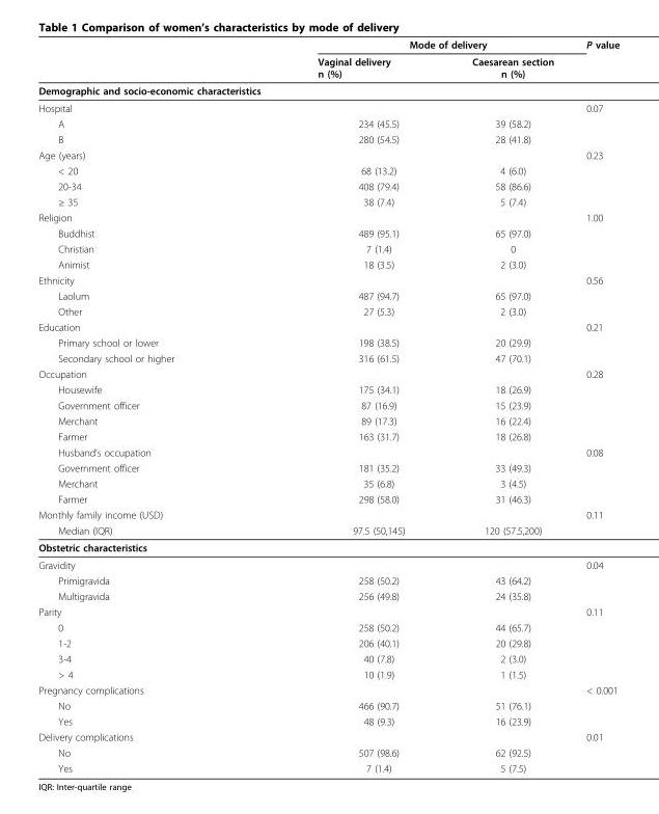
<table><thead><tr><td rowspan="2"></td><td colspan="2">Mode of delivery</td><td rowspan="2">P value</td></tr><tr><td>Vaginal delivery n (%)</td><td>Caesarean section n (%)</td></tr></thead><tbody><tr><td colspan="4">Demographic and socio-economic characteristics</td></tr><tr><td>Hospital</td><td></td><td></td><td>0.07</td></tr><tr><td>A</td><td>234 (45.5)</td><td>39 (58.2)</td><td></td></tr><tr><td>B</td><td>280 (54.5)</td><td>28 (41.8)</td><td></td></tr><tr><td>Age (years)</td><td></td><td></td><td>0.23</td></tr><tr><td>&lt; 20</td><td>68 (13.2)</td><td>4 (6.0)</td><td></td></tr><tr><td>20-34</td><td>408 (79.4)</td><td>58 (86.6)</td><td></td></tr><tr><td>≥ 35</td><td>38 (7.4)</td><td>5 (7.4)</td><td></td></tr><tr><td>Religion</td><td></td><td></td><td>1.00</td></tr><tr><td>Buddhist</td><td>489 (95.1)</td><td>65 (97.0)</td><td></td></tr><tr><td>Christian</td><td>7 (1.4)</td><td>0</td><td></td></tr><tr><td>Animist</td><td>18 (3.5)</td><td>2 (3.0)</td><td></td></tr><tr><td>Ethnicity</td><td></td><td></td><td>0.56</td></tr><tr><td>Laolum</td><td>487 (94.7)</td><td>65 (97.0)</td><td></td></tr><tr><td>Other</td><td>27 (5.3)</td><td>2 (3.0)</td><td></td></tr><tr><td>Education</td><td></td><td></td><td>0.21</td></tr><tr><td>Primary school or lower</td><td>198 (38.5)</td><td>20 (29.9)</td><td></td></tr><tr><td>Secondary school or higher</td><td>316 (61.5)</td><td>47 (70.1)</td><td></td></tr><tr><td>Occupation</td><td></td><td></td><td>0.28</td></tr><tr><td>Housewife</td><td>175 (34.1)</td><td>18 (26.9)</td><td></td></tr><tr><td>Government officer</td><td>87 (16.9)</td><td>15 (23.9)</td><td></td></tr><tr><td>Merchant</td><td>89 (17.3)</td><td>16 (22.4)</td><td></td></tr><tr><td>Farmer</td><td>163 (31.7)</td><td>18 (26.8)</td><td></td></tr><tr><td>Husband’s occupation</td><td></td><td></td><td>0.08</td></tr><tr><td>Government officer</td><td>181 (35.2)</td><td>33 (49.3)</td><td></td></tr><tr><td>Merchant</td><td>35 (6.8)</td><td>3 (4.5)</td><td></td></tr><tr><td>Farmer</td><td>298 (58.0)</td><td>31 (46.3)</td><td></td></tr><tr><td>Monthly family income (USD)</td><td></td><td></td><td>0.11</td></tr><tr><td>Median (IQR)</td><td>97.5 (50,145)</td><td>120 (57.5,200)</td><td></td></tr><tr><td colspan="4">Obstetric characteristics</td></tr><tr><td>Gravidity</td><td></td><td></td><td>0.04</td></tr><tr><td>Primigravida</td><td>258 (50.2)</td><td>43 (64.2)</td><td></td></tr><tr><td>Multigravida</td><td>256 (49.8)</td><td>24 (35.8)</td><td></td></tr><tr><td>Parity</td><td></td><td></td><td>0.11</td></tr><tr><td>0</td><td>258 (50.2)</td><td>44 (65.7)</td><td></td></tr><tr><td>1-2</td><td>206 (40.1)</td><td>20 (29.8)</td><td></td></tr><tr><td>3-4</td><td>40 (7.8)</td><td>2 (3.0)</td><td></td></tr><tr><td>&gt; 4</td><td>10 (1.9)</td><td>1 (1.5)</td><td></td></tr><tr><td>Pregnancy complications</td><td></td><td></td><td>&lt; 0.001</td></tr><tr><td>No</td><td>466 (90.7)</td><td>51 (76.1)</td><td></td></tr><tr><td>Yes</td><td>48 (9.3)</td><td>16 (23.9)</td><td></td></tr><tr><td>Delivery complications</td><td></td><td></td><td>0.01</td></tr><tr><td>No</td><td>507 (98.6)</td><td>62 (92.5)</td><td></td></tr><tr><td>Yes</td><td>7 (1.4)</td><td>5 (7.5)</td><td></td></tr></tbody></table>